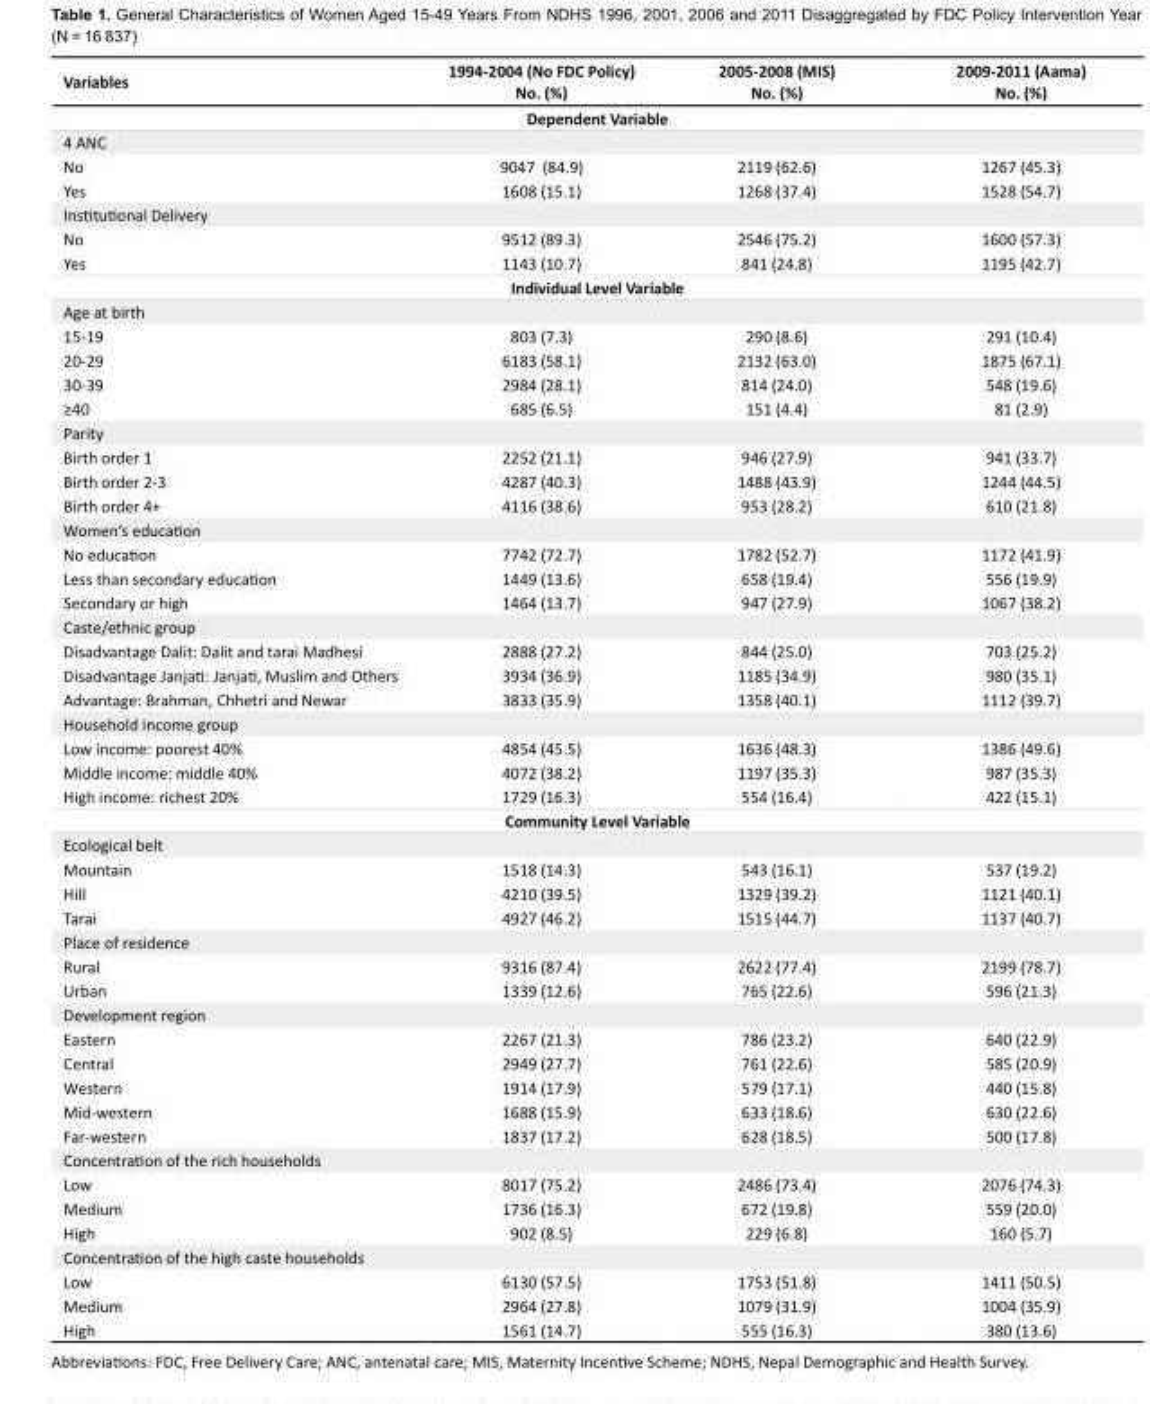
<table><tbody><tr><td>Variables</td><td>1994-2004 (No FDC Policy) No. (%)</td><td>2005-2008 (MIS) No. (%)</td><td>2009-2011 (Aama) No. (%)</td></tr><tr><td colspan="4">Dependent Variable</td></tr><tr><td colspan="4">4 ANC</td></tr><tr><td>No</td><td>9047 (84.9)</td><td>2119 (62.6)</td><td>1267 (45.3)</td></tr><tr><td>Yes</td><td>1608 (15.1)</td><td>1268 (37.4)</td><td>1528 (54.7)</td></tr><tr><td colspan="4">Institutional Delivery</td></tr><tr><td>No</td><td>9512 (89.3)</td><td>2546 (75.2)</td><td>1600 (57.3)</td></tr><tr><td>Yes</td><td>1143 (10.7)</td><td>841 (24.8)</td><td>1195 (42.7)</td></tr><tr><td colspan="4">Individual Level Variable</td></tr><tr><td colspan="4">Age at birth</td></tr><tr><td>15-19</td><td>803 (7.3)</td><td>290 (8.6)</td><td>291 (10.4)</td></tr><tr><td>20-29</td><td>6183 (58.1)</td><td>2132 (63.0)</td><td>1875 (67.1)</td></tr><tr><td>30-39</td><td>2984 (28.1)</td><td>814 (24.0)</td><td>548 (19.6)</td></tr><tr><td>≥40</td><td>685 (6.5)</td><td>151 (4.4)</td><td>81 (2.9)</td></tr><tr><td colspan="4">Parity</td></tr><tr><td>Birth order 1</td><td>2252 (21.1)</td><td>946 (27.9)</td><td>941 (33.7)</td></tr><tr><td>Birth order 2-3</td><td>4287 (40.3)</td><td>1488 (43.9)</td><td>1244 (44.5)</td></tr><tr><td>Birth order 4+</td><td>4116 (38.6)</td><td>953 (28.2)</td><td>610 (21.8)</td></tr><tr><td colspan="4">Women’s education</td></tr><tr><td>No education</td><td>7742 (72.7)</td><td>1782 (52.7)</td><td>1172 (41.9)</td></tr><tr><td>Less than secondary education</td><td>1449 (13.6)</td><td>658 (19.4)</td><td>556 (19.9)</td></tr><tr><td>Secondary or high</td><td>1464 (13.7)</td><td>947 (27.9)</td><td>1067 (38.2)</td></tr><tr><td colspan="4">Caste/ethnic group</td></tr><tr><td>Disadvantage Dalit: Dalit and tarai Madhesi</td><td>2888 (27.2)</td><td>844 (25.0)</td><td>703 (25.2)</td></tr><tr><td>Disadvantage Janjati: Janjati, Muslim and Others</td><td>3934 (36.9)</td><td>1185 (34.9)</td><td>980 (35.1)</td></tr><tr><td>Advantage: Brahman, Chhetri and Newar</td><td>3833 (35.9)</td><td>1358 (40.1)</td><td>1112 (39.7)</td></tr><tr><td colspan="4">Household income group</td></tr><tr><td>Low income: poorest 40%</td><td>4854 (45.5)</td><td>1636 (48.3)</td><td>1386 (49.6)</td></tr><tr><td>Middle income: middle 40%</td><td>4072 (38.2)</td><td>1197 (35.3)</td><td>987 (35.3)</td></tr><tr><td>High income: richest 20%</td><td>1729 (16.3)</td><td>554 (16.4)</td><td>422 (15.1)</td></tr><tr><td colspan="4">Community Level Variable</td></tr><tr><td colspan="4">Ecological belt</td></tr><tr><td>Mountain</td><td>1518 (14.3)</td><td>543 (16.1)</td><td>537 (19.2)</td></tr><tr><td>Hill</td><td>4210 (39.5)</td><td>1329 (39.2)</td><td>1121 (40.1)</td></tr><tr><td>Tarai</td><td>4927 (46.2)</td><td>1515 (44.7)</td><td>1137 (40.7)</td></tr><tr><td colspan="4">Place of residence</td></tr><tr><td>Rural</td><td>9316 (87.4)</td><td>2622 (77.4)</td><td>2199 (78.7)</td></tr><tr><td>Urban</td><td>1339 (12.6)</td><td>765 (22.6)</td><td>596 (21.3)</td></tr><tr><td colspan="4">Development region</td></tr><tr><td>Eastern</td><td>2267 (21.3)</td><td>786 (23.2)</td><td>640 (22.9)</td></tr><tr><td>Central</td><td>2949 (27.7)</td><td>761 (22.6)</td><td>585 (20.9)</td></tr><tr><td>Western</td><td>1914 (17.9)</td><td>579 (17.1)</td><td>440 (15.8)</td></tr><tr><td>Mid-western</td><td>1688 (15.9)</td><td>633 (18.6)</td><td>630 (22.6)</td></tr><tr><td>Far-western</td><td>1837 (17.2)</td><td>628 (18.5)</td><td>500 (17.8)</td></tr><tr><td colspan="4">Concentration of the rich households</td></tr><tr><td>Low</td><td>8017 (75.2)</td><td>2486 (73.4)</td><td>2076 (74.3)</td></tr><tr><td>Medium</td><td>1736 (16.3)</td><td>672 (19.8)</td><td>559 (20.0)</td></tr><tr><td>High</td><td>902 (8.5)</td><td>229 (6.8)</td><td>160 (5.7)</td></tr><tr><td colspan="4">Concentration of the high caste households</td></tr><tr><td>Low</td><td>6130 (57.5)</td><td>1753 (51.8)</td><td>1411 (50.5)</td></tr><tr><td>Medium</td><td>2964 (27.8)</td><td>1079 (31.9)</td><td>1004 (35.9)</td></tr><tr><td>High</td><td>1561 (14.7)</td><td>555 (16.3)</td><td>380 (13.6)</td></tr></tbody></table>